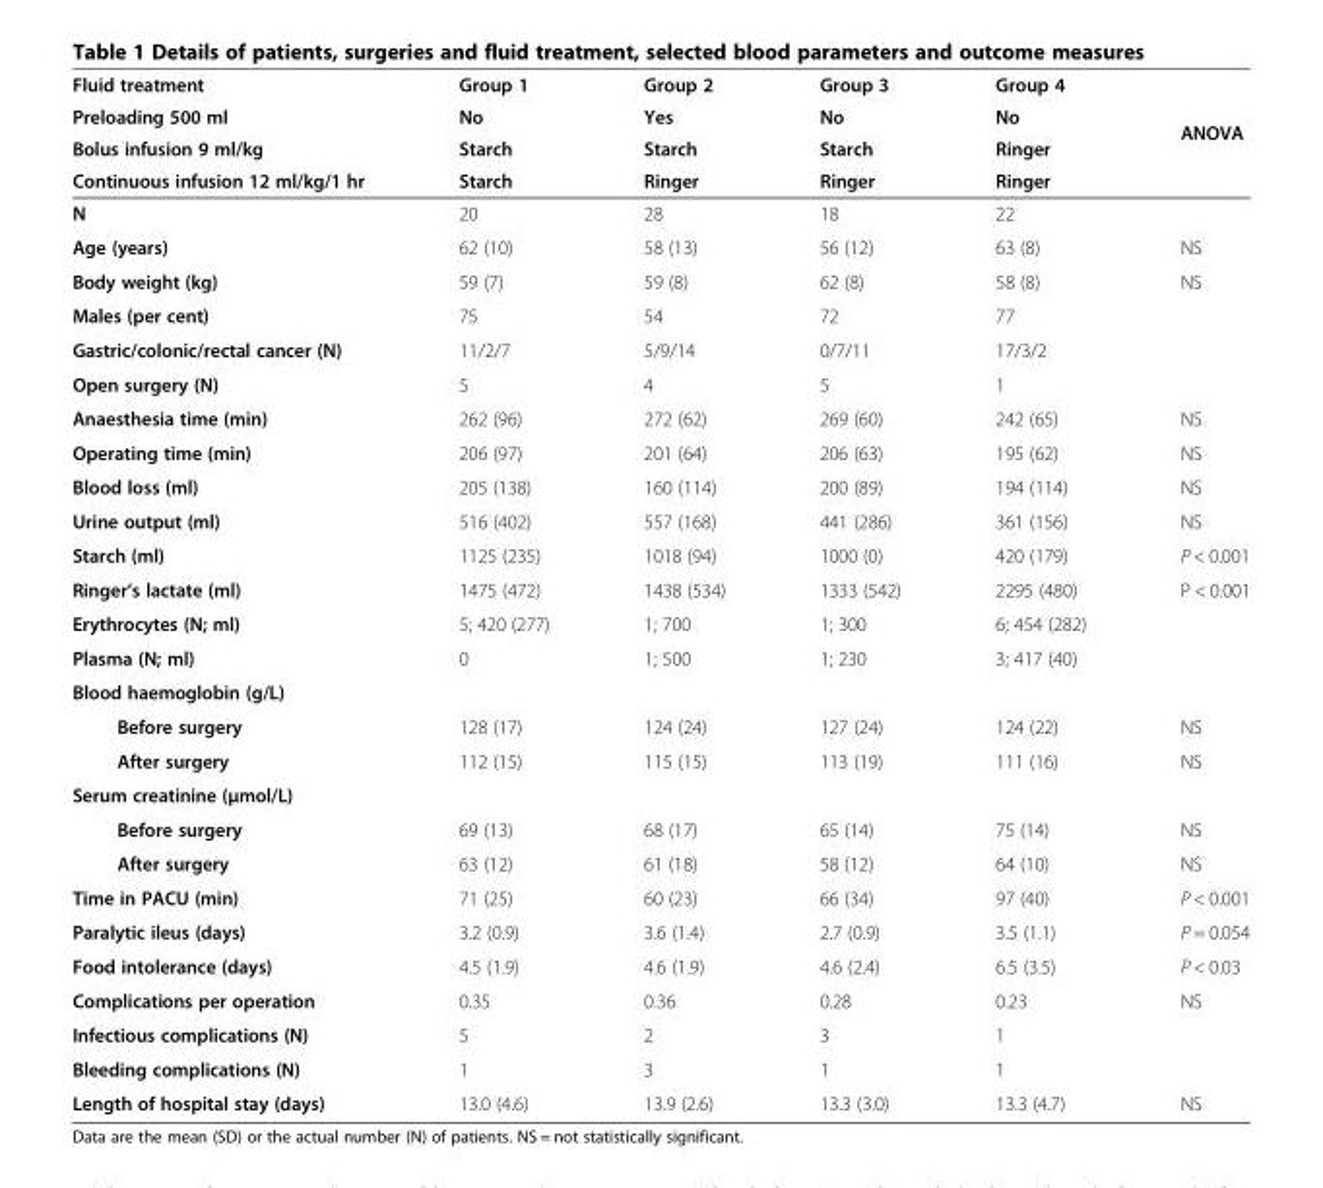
<table><thead><tr><td rowspan="4">Fluid treatment Preloading 500 ml Bolus infusion 9 ml/kg Continuous infusion 12 ml/kg/1 hr</td><td rowspan="4">Group 1 No Starch Starch</td><td rowspan="4">Group 2 Yes Starch Ringer</td><td rowspan="4">Group 3 No Starch Ringer</td><td rowspan="4">Group 4 No Ringer Ringer</td><td rowspan="4">ANOVA</td></tr><tr></tr><tr></tr><tr></tr></thead><tbody><tr><td>N</td><td>20</td><td>28</td><td>18</td><td>22</td><td></td></tr><tr><td>Age (years)</td><td>62 (10)</td><td>58 (13)</td><td>56 (12)</td><td>63 (8)</td><td>NS</td></tr><tr><td>Body weight (kg)</td><td>59 (7)</td><td>59 (8)</td><td>62 (8)</td><td>58 (8)</td><td>NS</td></tr><tr><td>Males (per cent)</td><td>75</td><td>54</td><td>72</td><td>77</td><td></td></tr><tr><td>Gastric/colonic/rectal cancer (N)</td><td>11/2/7</td><td>5/9/14</td><td>0/7/11</td><td>17/3/2</td><td></td></tr><tr><td>Open surgery (N)</td><td>5</td><td>4</td><td>5</td><td>1</td><td></td></tr><tr><td>Anaesthesia time (min)</td><td>262 (96)</td><td>272 (62)</td><td>269 (60)</td><td>242 (65)</td><td>NS</td></tr><tr><td>Operating time (min)</td><td>206 (97)</td><td>201 (64)</td><td>206 (63)</td><td>195 (62)</td><td>NS</td></tr><tr><td>Blood loss (ml)</td><td>205 (138)</td><td>160 (114)</td><td>200 (89)</td><td>194 (114)</td><td>NS</td></tr><tr><td>Urine output (ml)</td><td>516 (402)</td><td>557 (168)</td><td>441 (286)</td><td>361 (156)</td><td>NS</td></tr><tr><td>Starch (ml)</td><td>1125 (235)</td><td>1018 (94)</td><td>1000 (0)</td><td>420 (179)</td><td>P &lt; 0.001</td></tr><tr><td>Ringer’s lactate (ml)</td><td>1475 (472)</td><td>1438 (534)</td><td>1333 (542)</td><td>2295 (480)</td><td>P &lt; 0.001</td></tr><tr><td>Erythrocytes (N; ml)</td><td>5; 420 (277)</td><td>1; 700</td><td>1; 300</td><td>6; 454 (282)</td><td></td></tr><tr><td>Plasma (N; ml)</td><td>0</td><td>1; 500</td><td>1; 230</td><td>3; 417 (40)</td><td></td></tr><tr><td colspan="6">Blood haemoglobin (g/L)</td></tr><tr><td>Before surgery</td><td>128 (17)</td><td>124 (24)</td><td>127 (24)</td><td>124 (22)</td><td>NS</td></tr><tr><td>After surgery</td><td>112 (15)</td><td>115 (15)</td><td>113 (19)</td><td>111 (16)</td><td>NS</td></tr><tr><td colspan="6">Serum creatinine (μmol/L)</td></tr><tr><td>Before surgery</td><td>69 (13)</td><td>68 (17)</td><td>65 (14)</td><td>75 (14)</td><td>NS</td></tr><tr><td>After surgery</td><td>63 (12)</td><td>61 (18)</td><td>58 (12)</td><td>64 (10)</td><td>NS</td></tr><tr><td>Time in PACU (min)</td><td>71 (25)</td><td>60 (23)</td><td>66 (34)</td><td>97 (40)</td><td>P &lt; 0.001</td></tr><tr><td>Paralytic ileus (days)</td><td>3.2 (0.9)</td><td>3.6 (1.4)</td><td>2.7 (0.9)</td><td>3.5 (1.1)</td><td>P = 0.054</td></tr><tr><td>Food intolerance (days)</td><td>4.5 (1.9)</td><td>4.6 (1.9)</td><td>4.6 (2.4)</td><td>6.5 (3.5)</td><td>P &lt; 0.03</td></tr><tr><td>Complications per operation</td><td>0.35</td><td>0.36</td><td>0.28</td><td>0.23</td><td>NS</td></tr><tr><td>Infectious complications (N)</td><td>5</td><td>2</td><td>3</td><td>1</td><td></td></tr><tr><td>Bleeding complications (N)</td><td>1</td><td>3</td><td>1</td><td>1</td><td></td></tr><tr><td>Length of hospital stay (days)</td><td>13.0 (4.6)</td><td>13.9 (2.6)</td><td>13.3 (3.0)</td><td>13.3 (4.7)</td><td>NS</td></tr></tbody></table>